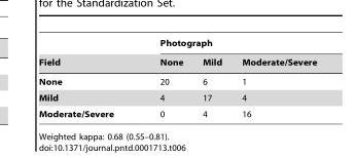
<table><thead><tr><td rowspan="2">Field</td><td colspan="3">Photograph</td></tr><tr><td>None</td><td>Mild</td><td>Moderate/Severe</td></tr></thead><tbody><tr><td>None</td><td>20</td><td>6</td><td>1</td></tr><tr><td>Mild</td><td>4</td><td>17</td><td>4</td></tr><tr><td>Moderate/Severe</td><td>0</td><td>4</td><td>16</td></tr></tbody></table>